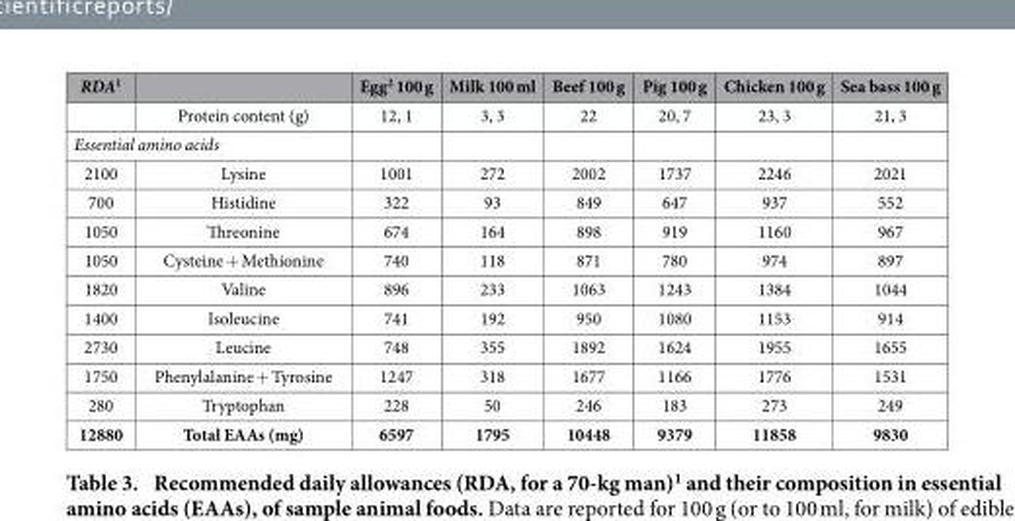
<table><thead><tr><td>RDA<sup>1</sup></td><td></td><td>Egg<sup>2</sup> 100 g</td><td>Milk 100 ml</td><td>Beef 100 g</td><td>Pig 100 g</td><td>Chicken 100 g</td><td>Sea bass 100 g</td></tr></thead><tbody><tr><td></td><td>Protein content (g)</td><td>12, 1</td><td>3, 3</td><td>22</td><td>20, 7</td><td>23, 3</td><td>21, 3</td></tr><tr><td colspan="8">Essential amino acids</td></tr><tr><td>2100</td><td>Lysine</td><td>1001</td><td>272</td><td>2002</td><td>1737</td><td>2246</td><td>2021</td></tr><tr><td>700</td><td>Histidine</td><td>322</td><td>93</td><td>849</td><td>647</td><td>937</td><td>552</td></tr><tr><td>1050</td><td>Threonine</td><td>674</td><td>164</td><td>898</td><td>919</td><td>1160</td><td>967</td></tr><tr><td>1050</td><td>Cysteine + Methionine</td><td>740</td><td>118</td><td>871</td><td>780</td><td>974</td><td>897</td></tr><tr><td>1820</td><td>Valine</td><td>896</td><td>233</td><td>1063</td><td>1243</td><td>1384</td><td>1044</td></tr><tr><td>1400</td><td>Isoleucine</td><td>741</td><td>192</td><td>950</td><td>1080</td><td>1153</td><td>914</td></tr><tr><td>2730</td><td>Leucine</td><td>748</td><td>355</td><td>1892</td><td>1624</td><td>1955</td><td>1655</td></tr><tr><td>1750</td><td>Phenylalanine + Tyrosine</td><td>1247</td><td>318</td><td>1677</td><td>1166</td><td>1776</td><td>1531</td></tr><tr><td>280</td><td>Tryptophan</td><td>228</td><td>50</td><td>246</td><td>183</td><td>273</td><td>249</td></tr><tr><td>12880</td><td>Total EAAs (mg)</td><td>6597</td><td>1795</td><td>10448</td><td>9379</td><td>11858</td><td>9830</td></tr></tbody></table>